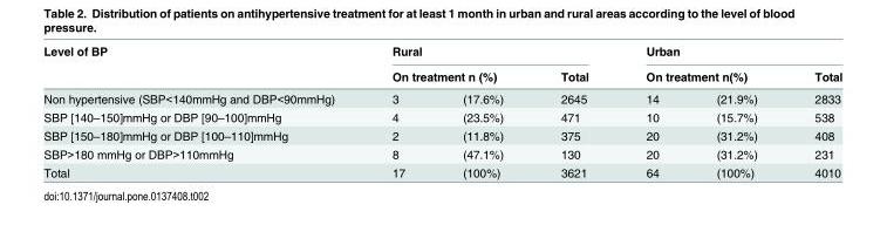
<table><thead><tr><td rowspan="3">Level of BP Non hypertensive (SBP&lt;140mmHg and DBP&lt;90mmHg)</td><td colspan="3">Rural</td><td colspan="3">Urban</td></tr><tr><td colspan="2">On treatment n (%)</td><td rowspan="2">Total 2645</td><td colspan="2">On treatment n(%)</td><td rowspan="2">Total 2833</td></tr><tr><td>3</td><td>(17.6%)</td><td>14</td><td>(21.9%)</td></tr></thead><tbody><tr><td>SBP [140–150]mmHg or DBP [90–100]mmHg</td><td>4</td><td>(23.5%)</td><td>471</td><td>10</td><td>(15.7%)</td><td>538</td></tr><tr><td>SBP [150–180]mmHg or DBP [100–110]mmHg</td><td>2</td><td>(11.8%)</td><td>375</td><td>20</td><td>(31.2%)</td><td>408</td></tr><tr><td>SBP&gt;180 mmHg or DBP&gt;110mmHg</td><td>8</td><td>(47.1%)</td><td>130</td><td>20</td><td>(31.2%)</td><td>231</td></tr><tr><td>Total</td><td>17</td><td>(100%)</td><td>3621</td><td>64</td><td>(100%)</td><td>4010</td></tr></tbody></table>